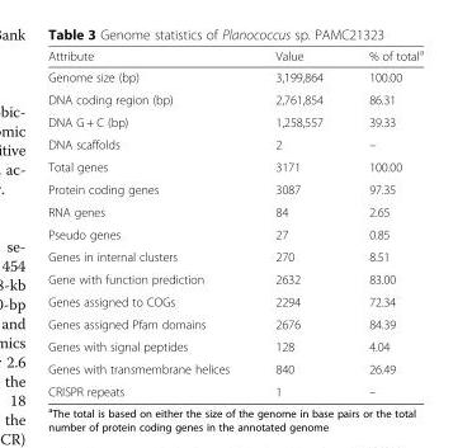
<table><thead><tr><td>Attribute</td><td>Value</td><td>% of total<sup>a</sup></td></tr></thead><tbody><tr><td>Genome size (bp)</td><td>3,199,864</td><td>100.00</td></tr><tr><td>DNA coding region (bp)</td><td>2,761,854</td><td>86.31</td></tr><tr><td>DNA G + C (bp)</td><td>1,258,557</td><td>39.33</td></tr><tr><td>DNA scaffolds</td><td>2</td><td>–</td></tr><tr><td>Total genes</td><td>3171</td><td>100.00</td></tr><tr><td>Protein coding genes</td><td>3087</td><td>97.35</td></tr><tr><td>RNA genes</td><td>84</td><td>2.65</td></tr><tr><td>Pseudo genes</td><td>27</td><td>0.85</td></tr><tr><td>Genes in internal clusters</td><td>270</td><td>8.51</td></tr><tr><td>Gene with function prediction</td><td>2632</td><td>83.00</td></tr><tr><td>Genes assigned to COGs</td><td>2294</td><td>72.34</td></tr><tr><td>Genes assigned Pfam domains</td><td>2676</td><td>84.39</td></tr><tr><td>Genes with signal peptides</td><td>128</td><td>4.04</td></tr><tr><td>Genes with transmembrane helices</td><td>840</td><td>26.49</td></tr><tr><td>CRISPR repeats</td><td>1</td><td>–</td></tr></tbody></table>